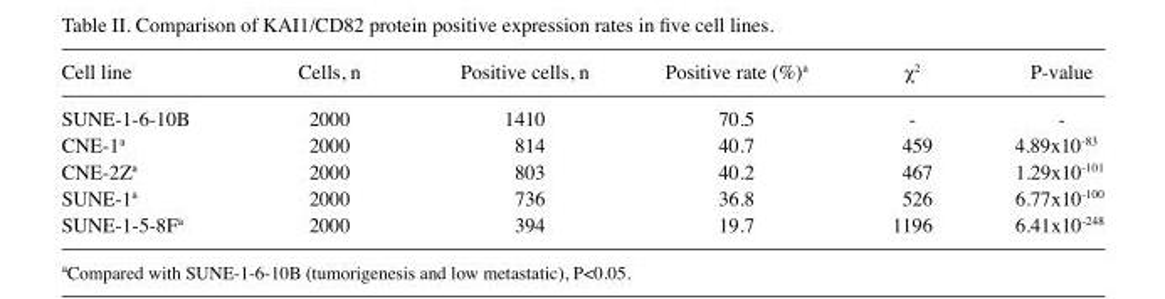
<table><thead><tr><td>Cell line</td><td>Cells, n</td><td>Positive cells, n</td><td>Positive rate (%)<sup>a</sup></td><td>χ<sup>2</sup></td><td>P-value</td></tr></thead><tbody><tr><td>SUNE-1-6-10B</td><td>2000</td><td>1410</td><td>70.5</td><td>-</td><td>-</td></tr><tr><td>CNE-1<sup>a</sup></td><td>2000</td><td>814</td><td>40.7</td><td>459</td><td>4.89x10-83</td></tr><tr><td>CNE-2Z<sup>a</sup></td><td>2000</td><td>803</td><td>40.2</td><td>467</td><td>1.29x10-101</td></tr><tr><td>SUNE-1<sup>a</sup></td><td>2000</td><td>736</td><td>36.8</td><td>526</td><td>6.77x10-100</td></tr><tr><td>SUNE-1-5-8F<sup>a</sup></td><td>2000</td><td>394</td><td>19.7</td><td>1196</td><td>6.41x10-248</td></tr></tbody></table>